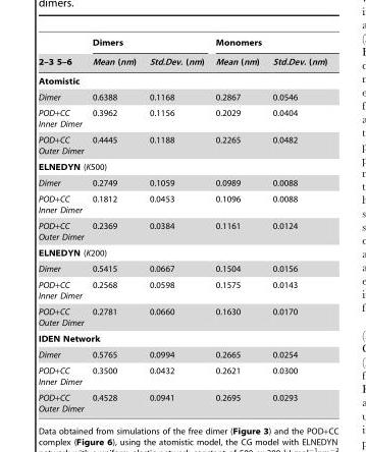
<table><thead><tr><td rowspan="2">2–3 5–6</td><td colspan="2">Dimers</td><td colspan="2">Monomers</td></tr><tr><td>Mean (nm)</td><td>Std.Dev. (nm)</td><td>Mean (nm)</td><td>Std.Dev. (nm)</td></tr></thead><tbody><tr><td colspan="5">Atomistic</td></tr><tr><td>Dimer</td><td>0.6388</td><td>0.1168</td><td>0.2867</td><td>0.0546</td></tr><tr><td>POD+CC Inner Dimer</td><td>0.3962</td><td>0.1156</td><td>0.2029</td><td>0.0404</td></tr><tr><td>POD+CC Outer Dimer</td><td>0.4445</td><td>0.1188</td><td>0.2265</td><td>0.0482</td></tr><tr><td colspan="5">ELNEDYN (K500)</td></tr><tr><td>Dimer</td><td>0.2749</td><td>0.1059</td><td>0.0989</td><td>0.0088</td></tr><tr><td>POD+CC Inner Dimer</td><td>0.1812</td><td>0.0453</td><td>0.1096</td><td>0.0088</td></tr><tr><td>POD+CC Outer Dimer</td><td>0.2369</td><td>0.0384</td><td>0.1161</td><td>0.0124</td></tr><tr><td colspan="5">ELNEDYN (K200)</td></tr><tr><td>Dimer</td><td>0.5415</td><td>0.0667</td><td>0.1504</td><td>0.0156</td></tr><tr><td>POD+CC Inner Dimer</td><td>0.2568</td><td>0.0598</td><td>0.1575</td><td>0.0143</td></tr><tr><td>POD+CC Outer Dimer</td><td>0.2781</td><td>0.0660</td><td>0.1630</td><td>0.0170</td></tr><tr><td colspan="5">IDEN Network</td></tr><tr><td>Dimer</td><td>0.5765</td><td>0.0994</td><td>0.2665</td><td>0.0254</td></tr><tr><td>POD+CC Inner Dimer</td><td>0.3500</td><td>0.0432</td><td>0.2621</td><td>0.0300</td></tr><tr><td>POD+CC Outer Dimer</td><td>0.4528</td><td>0.0941</td><td>0.2695</td><td>0.0293</td></tr></tbody></table>